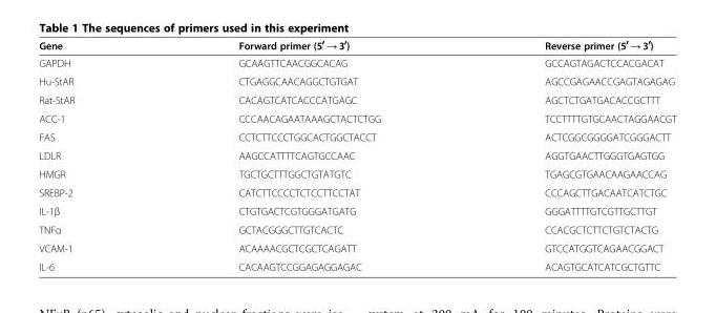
<table><thead><tr><td>Gene</td><td>Forward primer (5000 → 3000)</td><td>Reverse primer (5000 → 3000)</td></tr></thead><tbody><tr><td>GAPDH</td><td>GCAAGTTCAACGGCACAG</td><td>GCCAGTAGACTCCACGACAT</td></tr><tr><td>Hu-StAR</td><td>CTGAGGCAACAGGCTGTGAT</td><td>AGCCGAGAACCGAGTAGAGAG</td></tr><tr><td>Rat-StAR</td><td>CACAGTCATCACCCATGAGC</td><td>AGCTCTGATGACACCGCTTT</td></tr><tr><td>ACC-1</td><td>CCCAACAGAATAAAGCTACTCTGG</td><td>TCCTTTTGTGCAACTAGGAACGT</td></tr><tr><td>FAS</td><td>CCTCTTCCCTGGCACTGGCTACCT</td><td>ACTCGGCGGGGATCGGGACTT</td></tr><tr><td>LDLR</td><td>AAGCCATTTTCAGTGCCAAC</td><td>AGGTGAACTTGGGTGAGTGG</td></tr><tr><td>HMGR</td><td>TGCTGCTTTGGCTGTATGTC</td><td>TGAGCGTGAACAAGAACCAG</td></tr><tr><td>SREBP-2</td><td>CATCTTCCCCTCTCCTTCCTAT</td><td>CCCAGCTTGACAATCATCTGC</td></tr><tr><td>IL-1β</td><td>CTGTGACTCGTGGGATGATG</td><td>GGGATTTTGTCGTTGCTTGT</td></tr><tr><td>TNFα</td><td>GCTACGGGCTTGTCACTC</td><td>CCACGCTCTTCTGTCTACTG</td></tr><tr><td>VCAM-1</td><td>ACAAAACGCTCGCTCAGATT</td><td>GTCCATGGTCAGAACGGACT</td></tr><tr><td>IL-6</td><td>CACAAGTCCGGAGAGGAGAC</td><td>ACAGTGCATCATCGCTGTTC</td></tr></tbody></table>